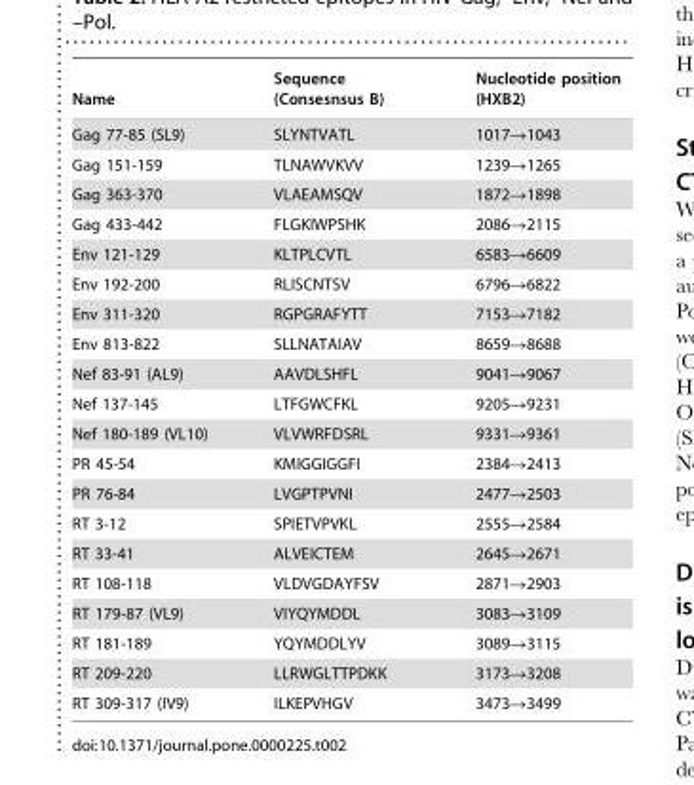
<table><thead><tr><td>Name</td><td>Sequence (Consesnsus B)</td><td>Nucleotide position (HXB2)</td></tr></thead><tbody><tr><td>Gag 77-85 (SL9)</td><td>SLYNTVATL</td><td>1017→1043</td></tr><tr><td>Gag 151-159</td><td>TLNAWVKVV</td><td>1239→1265</td></tr><tr><td>Gag 363-370</td><td>VLAEAMSQV</td><td>1872→1898</td></tr><tr><td>Gag 433-442</td><td>FLGKIWPSHK</td><td>2086→2115</td></tr><tr><td>Env 121-129</td><td>KLTPLCVTL</td><td>6583→6609</td></tr><tr><td>Env 192-200</td><td>RLISCNTSV</td><td>6796→6822</td></tr><tr><td>Env 311-320</td><td>RGPGRAFYTT</td><td>7153→7182</td></tr><tr><td>Env 813-822</td><td>SLLNATAIAV</td><td>8659→8688</td></tr><tr><td>Nef 83-91 (AL9)</td><td>AAVDLSHFL</td><td>9041→9067</td></tr><tr><td>Nef 137-145</td><td>LTFGWCFKL</td><td>9205→9231</td></tr><tr><td>Nef 180-189 (VL10)</td><td>VLVWRFDSRL</td><td>9331→9361</td></tr><tr><td>PR 45-54</td><td>KMIGGIGGFI</td><td>2384→2413</td></tr><tr><td>PR 76-84</td><td>LVGPTPVNI</td><td>2477→2503</td></tr><tr><td>RT 3-12</td><td>SPIETVPVKL</td><td>2555→2584</td></tr><tr><td>RT 33-41</td><td>ALVEICTEM</td><td>2645→2671</td></tr><tr><td>RT 108-118</td><td>VLDVGDAYFSV</td><td>2871→2903</td></tr><tr><td>RT 179-87 (VL9)</td><td>VIYQYMDDL</td><td>3083→3109</td></tr><tr><td>RT 181-189</td><td>YQYMDDLYV</td><td>3089→3115</td></tr><tr><td>RT 209-220</td><td>LLRWGLTTPDKK</td><td>3173→3208</td></tr><tr><td>RT 309-317 (IV9)</td><td>ILKEPVHGV</td><td>3473→3499</td></tr></tbody></table>